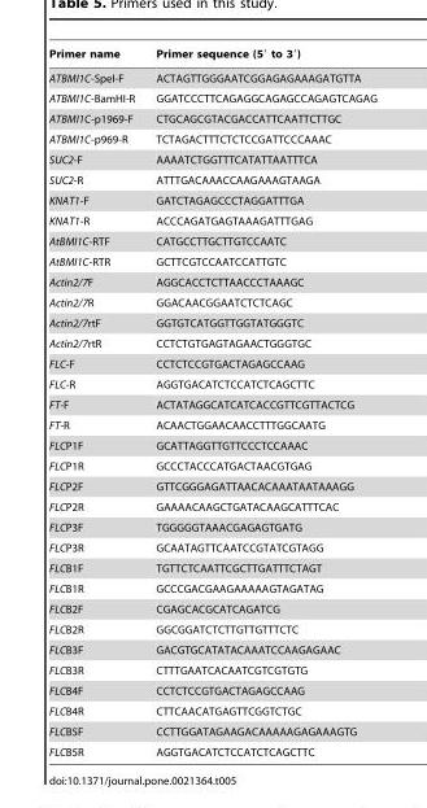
<table><thead><tr><td>Primer name</td><td>Primer sequence (5′ to 3′)</td></tr></thead><tbody><tr><td>ATBMI1C-SpeI-F</td><td>ACTAGTTGGGAATCGGAGAGAAAGATGTTA</td></tr><tr><td>ATBMI1C-BamHI-R</td><td>GGATCCCTTCAGAGGCAGAGCCAGAGTCAGAG</td></tr><tr><td>ATBMI1C-p1969-F</td><td>CTGCAGCGTACGACCATTCAATTCTTGC</td></tr><tr><td>ATBMI1C-p969-R</td><td>TCTAGACTTTCTCTCCGATTCCCAAAC</td></tr><tr><td>SUC2-F</td><td>AAAATCTGGTTTCATATTAATTTCA</td></tr><tr><td>SUC2-R</td><td>ATTTGACAAACCAAGAAAGTAAGA</td></tr><tr><td>KNAT1-F</td><td>GATCTAGAGCCCTAGGATTTGA</td></tr><tr><td>KNAT1-R</td><td>ACCCAGATGAGTAAAGATTTGAG</td></tr><tr><td>AtBMI1C-RTF</td><td>CATGCCTTGCTTGTCCAATC</td></tr><tr><td>AtBMI1C-RTR</td><td>GCTTCGTCCAATCCATTGTC</td></tr><tr><td>Actin2/7F</td><td>AGGCACCTCTTAACCCTAAAGC</td></tr><tr><td>Actin2/7R</td><td>GGACAACGGAATCTCTCAGC</td></tr><tr><td>Actin2/7rtF</td><td>GGTGTCATGGTTGGTATGGGTC</td></tr><tr><td>Actin2/7rtR</td><td>CCTCTGTGAGTAGAACTGGGTGC</td></tr><tr><td>FLC-F</td><td>CCTCTCCGTGACTAGAGCCAAG</td></tr><tr><td>FLC-R</td><td>AGGTGACATCTCCATCTCAGCTTC</td></tr><tr><td>FT-F</td><td>ACTATAGGCATCATCACCGTTCGTTACTCG</td></tr><tr><td>FT-R</td><td>ACAACTGGAACAACCTTTGGCAATG</td></tr><tr><td>FLCP1F</td><td>GCATTAGGTTGTTCCCTCCAAAC</td></tr><tr><td>FLCP1R</td><td>GCCCTACCCATGACTAACGTGAG</td></tr><tr><td>FLCP2F</td><td>GTTCGGGAGATTAACACAAATAATAAAGG</td></tr><tr><td>FLCP2R</td><td>GAAAACAAGCTGATACAAGCATTTCAC</td></tr><tr><td>FLCP3F</td><td>TGGGGGTAAACGAGAGTGATG</td></tr><tr><td>FLCP3R</td><td>GCAATAGTTCAATCCGTATCGTAGG</td></tr><tr><td>FLCB1F</td><td>TGTTCTCAATTCGCTTGATTTCTAGT</td></tr><tr><td>FLCB1R</td><td>GCCCGACGAAGAAAAAGTAGATAG</td></tr><tr><td>FLCB2F</td><td>CGAGCACGCATCAGATCG</td></tr><tr><td>FLCB2R</td><td>GGCGGATCTCTTGTTGTTTCTC</td></tr><tr><td>FLCB3F</td><td>GACGTGCATATACAAATCCAAGAGAAC</td></tr><tr><td>FLCB3R</td><td>CTTTGAATCACAATCGTCGTGTG</td></tr><tr><td>FLCB4F</td><td>CCTCTCCGTGACTAGAGCCAAG</td></tr><tr><td>FLCB4R</td><td>CTTCAACATGAGTTCGGTCTGC</td></tr><tr><td>FLCB5F</td><td>CCTTGGATAGAAGACAAAAAGAGAAAGTG</td></tr><tr><td>FLCB5R</td><td>AGGTGACATCTCCATCTCAGCTTC</td></tr></tbody></table>